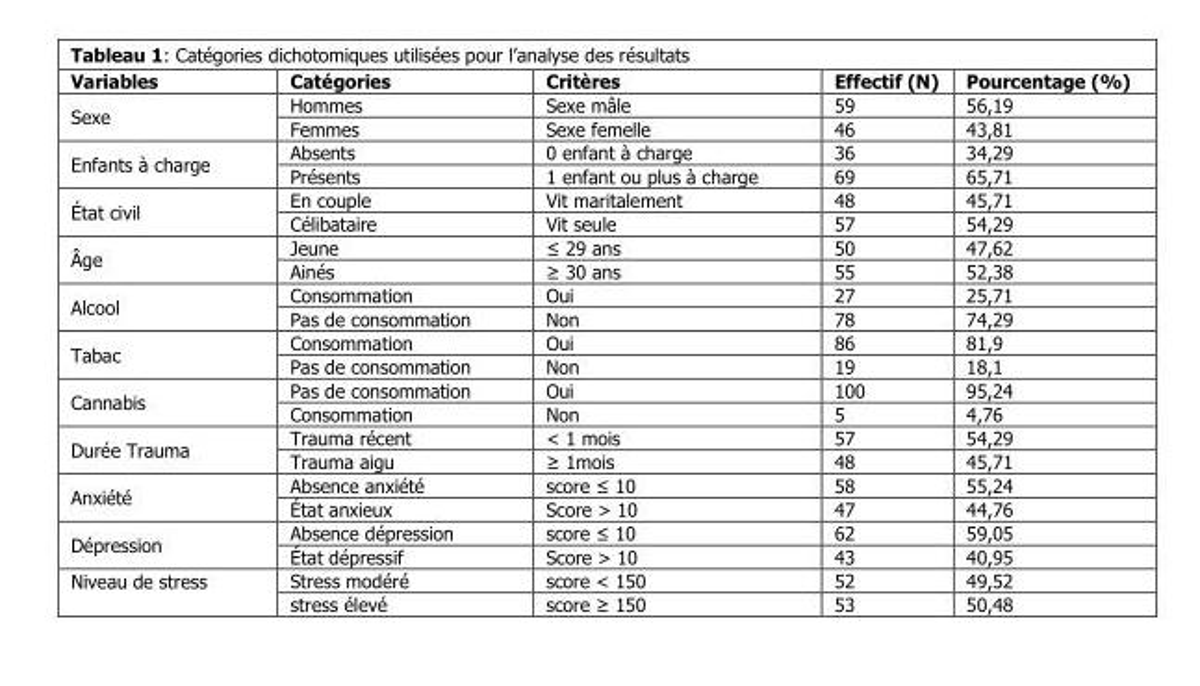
<table><thead><tr><td>Variables</td><td>Catégories</td><td>Critères</td><td>Effectif (N)</td><td>Pourcentage (%)</td></tr></thead><tbody><tr><td rowspan="2">Sexe</td><td>Hommes</td><td>Sexe mâle</td><td>59</td><td>56,19</td></tr><tr><td>Femmes</td><td>Sexe femelle</td><td>46</td><td>43,81</td></tr><tr><td rowspan="2">Enfants à charge</td><td>Absents</td><td>0 enfant à charge</td><td>36</td><td>34,29</td></tr><tr><td>Présents</td><td>1 enfant ou plus à charge</td><td>69</td><td>65,71</td></tr><tr><td rowspan="2">État civil</td><td>En couple</td><td>Vit maritalement</td><td>48</td><td>45,71</td></tr><tr><td>Célibataire</td><td>Vit seule</td><td>57</td><td>54,29</td></tr><tr><td rowspan="2">Âge</td><td>Jeune</td><td>≤ 29 ans</td><td>50</td><td>47,62</td></tr><tr><td>Ainés</td><td>≥ 30 ans</td><td>55</td><td>52,38</td></tr><tr><td rowspan="2">Alcool</td><td>Consommation</td><td>Oui</td><td>27</td><td>25,71</td></tr><tr><td>Pas de consommation</td><td>Non</td><td>78</td><td>74,29</td></tr><tr><td rowspan="2">Tabac</td><td>Consommation</td><td>Oui</td><td>86</td><td>81,9</td></tr><tr><td>Pas de consommation</td><td>Non</td><td>19</td><td>18,1</td></tr><tr><td rowspan="2">Cannabis</td><td>Pas de consommation</td><td>Oui</td><td>100</td><td>95,24</td></tr><tr><td>Consommation</td><td>Non</td><td>5</td><td>4,76</td></tr><tr><td rowspan="2">Durée Trauma</td><td>Trauma récent</td><td>&lt; 1 mois</td><td>57</td><td>54,29</td></tr><tr><td>Trauma aigu</td><td>≥ 1mois</td><td>48</td><td>45,71</td></tr><tr><td rowspan="2">Anxiété</td><td>Absence anxiété</td><td>score ≤ 10</td><td>58</td><td>55,24</td></tr><tr><td>État anxieux</td><td>Score &gt; 10</td><td>47</td><td>44,76</td></tr><tr><td rowspan="2">Dépression</td><td>Absence dépression</td><td>score ≤ 10</td><td>62</td><td>59,05</td></tr><tr><td>État dépressif</td><td>Score &gt; 10</td><td>43</td><td>40,95</td></tr><tr><td rowspan="2">Niveau de stress</td><td>Stress modéré</td><td>score &lt; 150</td><td>52</td><td>49,52</td></tr><tr><td>stress élevé</td><td>score ≥ 150</td><td>53</td><td>50,48</td></tr></tbody></table>